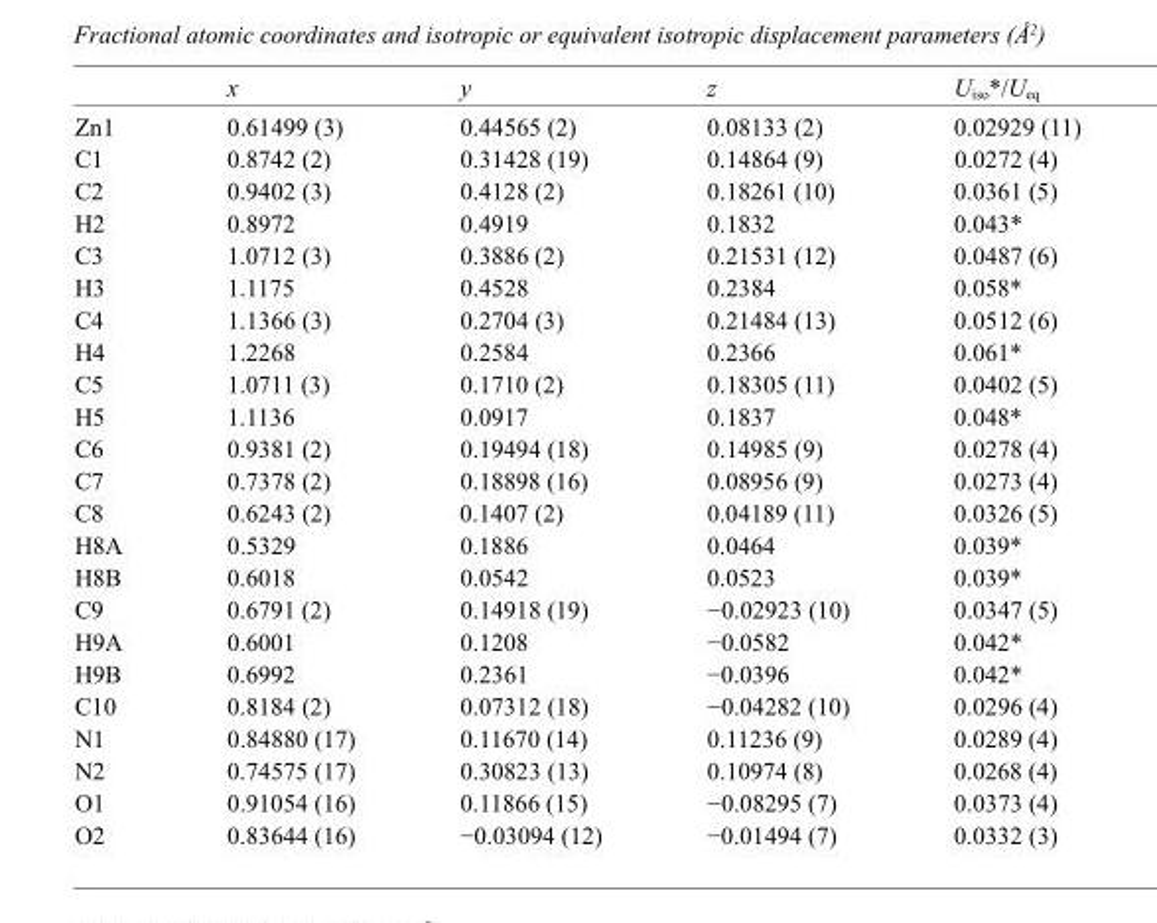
<table><thead><tr><td></td><td>x</td><td>y</td><td>z</td><td>U<sub>iso</sub>*/U<sub>eq</sub></td></tr></thead><tbody><tr><td>Zn1</td><td>0.61499 (3)</td><td>0.44565 (2)</td><td>0.08133 (2)</td><td>0.02929 (11)</td></tr><tr><td>C1</td><td>0.8742 (2)</td><td>0.31428 (19)</td><td>0.14864 (9)</td><td>0.0272 (4)</td></tr><tr><td>C2</td><td>0.9402 (3)</td><td>0.4128 (2)</td><td>0.18261 (10)</td><td>0.0361 (5)</td></tr><tr><td>H2</td><td>0.8972</td><td>0.4919</td><td>0.1832</td><td>0.043*</td></tr><tr><td>C3</td><td>1.0712 (3)</td><td>0.3886 (2)</td><td>0.21531 (12)</td><td>0.0487 (6)</td></tr><tr><td>H3</td><td>1.1175</td><td>0.4528</td><td>0.2384</td><td>0.058*</td></tr><tr><td>C4</td><td>1.1366 (3)</td><td>0.2704 (3)</td><td>0.21484 (13)</td><td>0.0512 (6)</td></tr><tr><td>H4</td><td>1.2268</td><td>0.2584</td><td>0.2366</td><td>0.061*</td></tr><tr><td>C5</td><td>1.0711 (3)</td><td>0.1710 (2)</td><td>0.18305 (11)</td><td>0.0402 (5)</td></tr><tr><td>H5</td><td>1.1136</td><td>0.0917</td><td>0.1837</td><td>0.048*</td></tr><tr><td>C6</td><td>0.9381 (2)</td><td>0.19494 (18)</td><td>0.14985 (9)</td><td>0.0278 (4)</td></tr><tr><td>C7</td><td>0.7378 (2)</td><td>0.18898 (16)</td><td>0.08956 (9)</td><td>0.0273 (4)</td></tr><tr><td>C8</td><td>0.6243 (2)</td><td>0.1407 (2)</td><td>0.04189 (11)</td><td>0.0326 (5)</td></tr><tr><td>H8A</td><td>0.5329</td><td>0.1886</td><td>0.0464</td><td>0.039*</td></tr><tr><td>H8B</td><td>0.6018</td><td>0.0542</td><td>0.0523</td><td>0.039*</td></tr><tr><td>C9</td><td>0.6791 (2)</td><td>0.14918 (19)</td><td>−0.02923 (10)</td><td>0.0347 (5)</td></tr><tr><td>H9A</td><td>0.6001</td><td>0.1208</td><td>−0.0582</td><td>0.042*</td></tr><tr><td>H9B</td><td>0.6992</td><td>0.2361</td><td>−0.0396</td><td>0.042*</td></tr><tr><td>C10</td><td>0.8184 (2)</td><td>0.07312 (18)</td><td>−0.04282 (10)</td><td>0.0296 (4)</td></tr><tr><td>N1</td><td>0.84880 (17)</td><td>0.11670 (14)</td><td>0.11236 (9)</td><td>0.0289 (4)</td></tr><tr><td>N2</td><td>0.74575 (17)</td><td>0.30823 (13)</td><td>0.10974 (8)</td><td>0.0268 (4)</td></tr><tr><td>O1</td><td>0.91054 (16)</td><td>0.11866 (15)</td><td>−0.08295 (7)</td><td>0.0373 (4)</td></tr><tr><td>O2</td><td>0.83644 (16)</td><td>−0.03094 (12)</td><td>−0.01494 (7)</td><td>0.0332 (3)</td></tr></tbody></table>